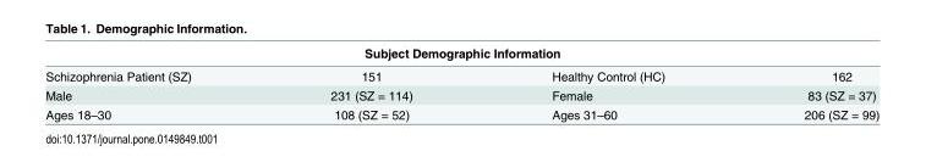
<table><thead><tr><td colspan="4">Subject Demographic Information</td></tr><tr><td>Schizophrenia Patient (SZ)</td><td>151</td><td>Healthy Control (HC)</td><td>162</td></tr></thead><tbody><tr><td>Male</td><td>231 (SZ = 114)</td><td>Female</td><td>83 (SZ = 37)</td></tr><tr><td>Ages 18–30</td><td>108 (SZ = 52)</td><td>Ages 31–60</td><td>206 (SZ = 99)</td></tr></tbody></table>